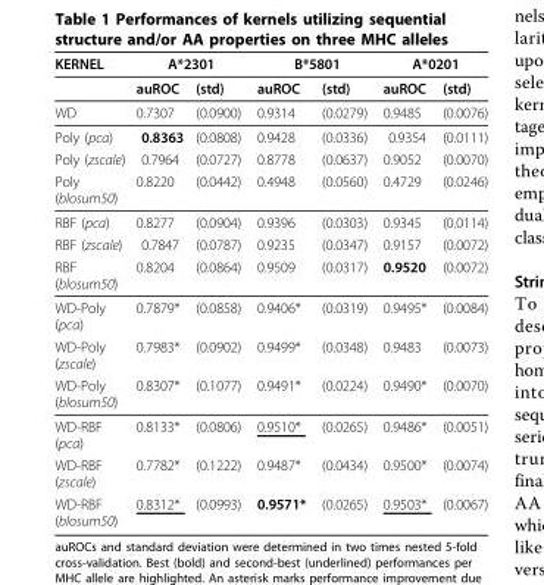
<table><thead><tr><td rowspan="2">KERNEL</td><td colspan="2">A*2301</td><td colspan="2">B*5801</td><td colspan="2">A*0201</td></tr><tr><td>auROC</td><td>(std)</td><td>auROC</td><td>(std)</td><td>auROC</td><td>(std)</td></tr></thead><tbody><tr><td>WD</td><td>0.7307</td><td>(0.0900)</td><td>0.9314</td><td>(0.0279)</td><td>0.9485</td><td>(0.0076)</td></tr><tr><td>Poly (pca)</td><td>0.8363</td><td>(0.0808)</td><td>0.9428</td><td>(0.0336)</td><td>0.9354</td><td>(0.0111)</td></tr><tr><td>Poly (zscale)</td><td>0.7964</td><td>(0.0727)</td><td>0.8778</td><td>(0.0637)</td><td>0.9052</td><td>(0.0070)</td></tr><tr><td>Poly (blosum50)</td><td>0.8220</td><td>(0.0442)</td><td>0.4948</td><td>(0.0560)</td><td>0.4729</td><td>(0.0246)</td></tr><tr><td>RBF (pca)</td><td>0.8277</td><td>(0.0904)</td><td>0.9396</td><td>(0.0303)</td><td>0.9345</td><td>(0.0114)</td></tr><tr><td>RBF (zscale)</td><td>0.7847</td><td>(0.0787)</td><td>0.9235</td><td>(0.0347)</td><td>0.9157</td><td>(0.0072)</td></tr><tr><td>RBF (blosum50)</td><td>0.8204</td><td>(0.0864)</td><td>0.9509</td><td>(0.0317)</td><td>0.9520</td><td>(0.0072)</td></tr><tr><td>WD-Poly (pca)</td><td>0.7879*</td><td>(0.0858)</td><td>0.9406*</td><td>(0.0319)</td><td>0.9495*</td><td>(0.0084)</td></tr><tr><td>WD-Poly (zscale)</td><td>0.7983*</td><td>(0.0902)</td><td>0.9499*</td><td>(0.0348)</td><td>0.9483</td><td>(0.0073)</td></tr><tr><td>WD-Poly (blosum50)</td><td>0.8307*</td><td>(0.1077)</td><td>0.9491*</td><td>(0.0224)</td><td>0.9490*</td><td>(0.0070)</td></tr><tr><td>WD-RBF (pca)</td><td>0.8133*</td><td>(0.0806)</td><td>0.9510*</td><td>(0.0265)</td><td>0.9486*</td><td>(0.0051)</td></tr><tr><td>WD-RBF (zscale)</td><td>0.7782*</td><td>(0.1222)</td><td>0.9487*</td><td>(0.0434)</td><td>0.9500*</td><td>(0.0074)</td></tr><tr><td>WD-RBF (blosum50)</td><td>0.8312*</td><td>(0.0993)</td><td>0.9571*</td><td>(0.0265)</td><td>0.9503*</td><td>(0.0067)</td></tr></tbody></table>